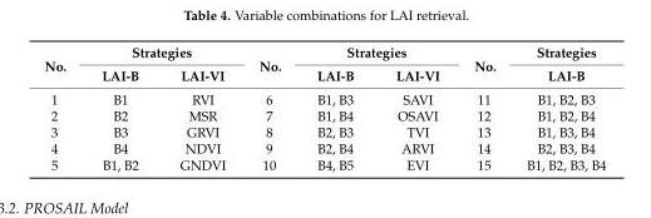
<table><thead><tr><td rowspan="2">No.</td><td colspan="2">Strategies</td><td rowspan="2">No.</td><td colspan="2">Strategies</td><td rowspan="2">No.</td><td rowspan="2">Strategies LAI-B</td></tr><tr><td>LAI-B</td><td>LAI-VI</td><td>LAI-B</td><td>LAI-VI</td></tr></thead><tbody><tr><td>1</td><td>B1</td><td>RVI</td><td>6</td><td>B1, B3</td><td>SAVI</td><td>11</td><td>B1, B2, B3</td></tr><tr><td>2</td><td>B2</td><td>MSR</td><td>7</td><td>B1, B4</td><td>OSAVI</td><td>12</td><td>B1, B2, B4</td></tr><tr><td>3</td><td>B3</td><td>GRVI</td><td>8</td><td>B2, B3</td><td>TVI</td><td>13</td><td>B1, B3, B4</td></tr><tr><td>4</td><td>B4</td><td>NDVI</td><td>9</td><td>B2, B4</td><td>ARVI</td><td>14</td><td>B2, B3, B4</td></tr><tr><td>5</td><td>B1, B2</td><td>GNDVI</td><td>10</td><td>B4, B5</td><td>EVI</td><td>15</td><td>B1, B2, B3, B4</td></tr></tbody></table>